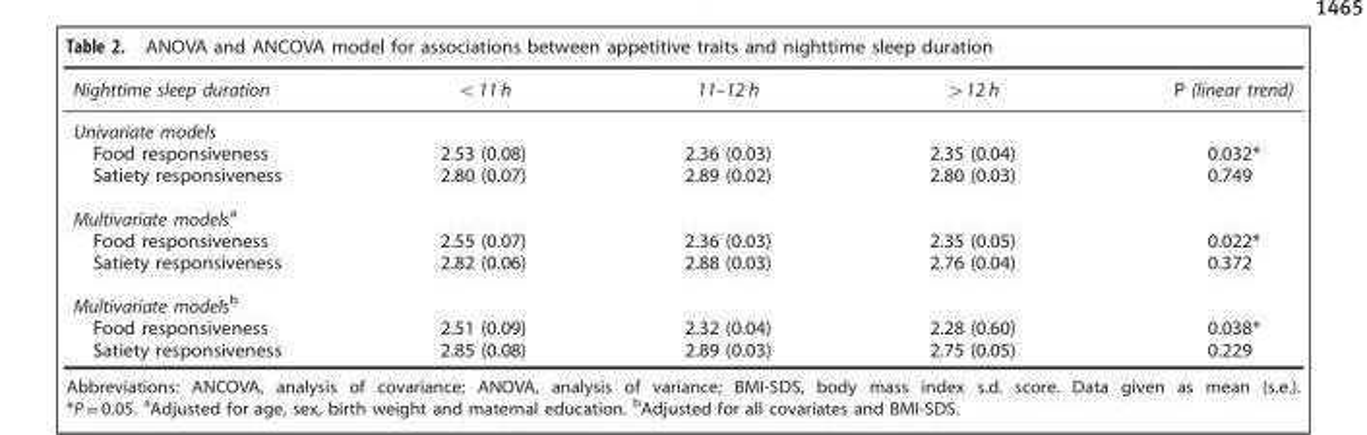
<table><thead><tr><td>Nighttime sleep duration</td><td>&lt;11 h</td><td>11–12 h</td><td>&gt;12 h</td><td>P (linear trend)</td></tr></thead><tbody><tr><td colspan="5">Univariate models</td></tr><tr><td>Food responsiveness</td><td>2.53 (0.08)</td><td>2.36 (0.03)</td><td>2.35 (0.04)</td><td>0.032*</td></tr><tr><td>Satiety responsiveness</td><td>2.80 (0.07)</td><td>2.89 (0.02)</td><td>2.80 (0.03)</td><td>0.749</td></tr><tr><td colspan="5">Multivariate models<sup>a</sup></td></tr><tr><td>Food responsiveness</td><td>2.55 (0.07)</td><td>2.36 (0.03)</td><td>2.35 (0.05)</td><td>0.022*</td></tr><tr><td>Satiety responsiveness</td><td>2.82 (0.06)</td><td>2.88 (0.03)</td><td>2.76 (0.04)</td><td>0.372</td></tr><tr><td colspan="5">Multivariate models<sup>b</sup></td></tr><tr><td>Food responsiveness</td><td>2.51 (0.09)</td><td>2.32 (0.04)</td><td>2.28 (0.60)</td><td>0.038*</td></tr><tr><td>Satiety responsiveness</td><td>2.85 (0.08)</td><td>2.89 (0.03)</td><td>2.75 (0.05)</td><td>0.229</td></tr></tbody></table>